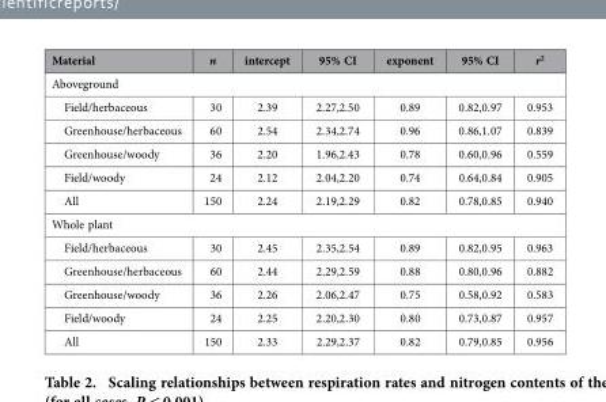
<table><thead><tr><td>Material</td><td>n</td><td>intercept</td><td>95% CI</td><td>exponent</td><td>95% CI</td><td>r<sup>2</sup></td></tr></thead><tbody><tr><td colspan="7">Aboveground</td></tr><tr><td>Field/herbaceous</td><td>30</td><td>2.39</td><td>2.27,2.50</td><td>0.89</td><td>0.82,0.97</td><td>0.953</td></tr><tr><td>Greenhouse/herbaceous</td><td>60</td><td>2.54</td><td>2.34,2.74</td><td>0.96</td><td>0.86,1.07</td><td>0.839</td></tr><tr><td>Greenhouse/woody</td><td>36</td><td>2.20</td><td>1.96,2.43</td><td>0.78</td><td>0.60,0.96</td><td>0.559</td></tr><tr><td>Field/woody</td><td>24</td><td>2.12</td><td>2.04,2.20</td><td>0.74</td><td>0.64,0.84</td><td>0.905</td></tr><tr><td>All</td><td>150</td><td>2.24</td><td>2.19,2.29</td><td>0.82</td><td>0.78,0.85</td><td>0.940</td></tr><tr><td colspan="7">Whole plant</td></tr><tr><td>Field/herbaceous</td><td>30</td><td>2.45</td><td>2.35,2.54</td><td>0.89</td><td>0.82,0.95</td><td>0.963</td></tr><tr><td>Greenhouse/herbaceous</td><td>60</td><td>2.44</td><td>2.29,2.59</td><td>0.88</td><td>0.80,0.96</td><td>0.882</td></tr><tr><td>Greenhouse/woody</td><td>36</td><td>2.26</td><td>2.06,2.47</td><td>0.75</td><td>0.58,0.92</td><td>0.583</td></tr><tr><td>Field/woody</td><td>24</td><td>2.25</td><td>2.20,2.30</td><td>0.80</td><td>0.73,0.87</td><td>0.957</td></tr><tr><td>All</td><td>150</td><td>2.33</td><td>2.29,2.37</td><td>0.82</td><td>0.79,0.85</td><td>0.956</td></tr></tbody></table>